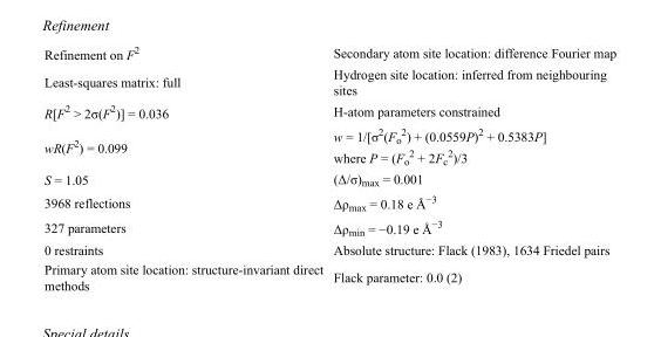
<table><tbody><tr><td>Refinement on F<sup>2</sup></td><td>Secondary atom site location: difference Fourier map</td></tr><tr><td>Least-squares matrix: full</td><td>Hydrogen site location: inferred from neighbouring sites</td></tr><tr><td>R[F<sup>2</sup> &gt; 2σ(F<sup>2</sup>)] = 0.036</td><td>H-atom parameters constrained</td></tr><tr><td>wR(F<sup>2</sup>) = 0.099</td><td>w = 1/[σ<sup>2</sup>(F<sub>o</sub> <sup>2</sup>) + (0.0559P)<sup>2</sup> + 0.5383P] where P = (F<sub>o</sub> <sup>2</sup> + 2F<sub>c</sub> <sup>2</sup>)/3</td></tr><tr><td>S = 1.05</td><td>(Δ/σ)<sub>max</sub> = 0.001</td></tr><tr><td>3968 reflections</td><td>Δρ<sub>max</sub> = 0.18 e Å<sup>−3</sup></td></tr><tr><td>327 parameters</td><td>Δρ<sub>min</sub> = −0.19 e Å<sup>−3</sup></td></tr><tr><td>0 restraints</td><td>Absolute structure: Flack (1983), 1634 Friedel pairs</td></tr><tr><td>Primary atom site location: structure-invariant direct methods</td><td>Flack parameter: 0.0 (2)</td></tr></tbody></table>